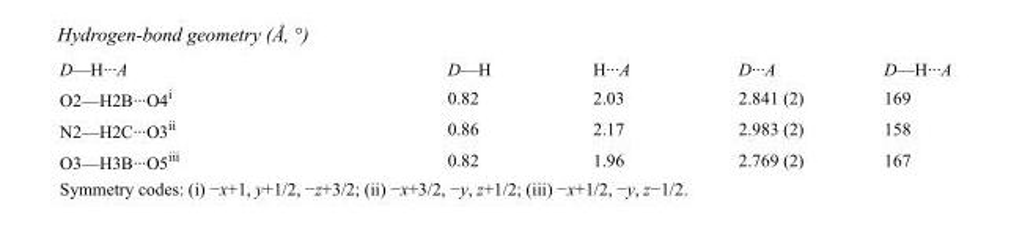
<table><tbody><tr><td>D—H···A</td><td>D—H</td><td>H···A</td><td>D···A</td><td>D—H···A</td></tr><tr><td>O2—H2B···O4<sup>i</sup></td><td>0.82</td><td>2.03</td><td>2.841 (2)</td><td>169</td></tr><tr><td>N2—H2C···O3<sup>ii</sup></td><td>0.86</td><td>2.17</td><td>2.983 (2)</td><td>158</td></tr><tr><td>O3—H3B···O5<sup>iii</sup></td><td>0.82</td><td>1.96</td><td>2.769 (2)</td><td>167</td></tr></tbody></table>